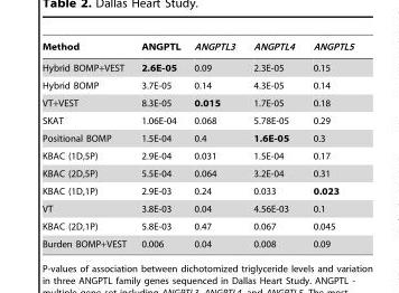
<table><thead><tr><td>Method</td><td>ANGPTL</td><td>ANGPTL3</td><td>ANGPTL4</td><td>ANGPTL5</td></tr></thead><tbody><tr><td>Hybrid BOMP+VEST</td><td>2.6E-05</td><td>0.09</td><td>2.3E-05</td><td>0.15</td></tr><tr><td>Hybrid BOMP</td><td>3.7E-05</td><td>0.14</td><td>4.3E-05</td><td>0.14</td></tr><tr><td>VT+VEST</td><td>8.3E-05</td><td>0.015</td><td>1.7E-05</td><td>0.18</td></tr><tr><td>SKAT</td><td>1.06E-04</td><td>0.068</td><td>5.78E-05</td><td>0.29</td></tr><tr><td>Positional BOMP</td><td>1.5E-04</td><td>0.4</td><td>1.6E-05</td><td>0.3</td></tr><tr><td>KBAC (1D,5P)</td><td>2.9E-04</td><td>0.031</td><td>1.5E-04</td><td>0.17</td></tr><tr><td>KBAC (2D,5P)</td><td>5.5E-04</td><td>0.064</td><td>3.2E-04</td><td>0.31</td></tr><tr><td>KBAC (1D,1P)</td><td>2.9E-03</td><td>0.24</td><td>0.033</td><td>0.023</td></tr><tr><td>VT</td><td>3.8E-03</td><td>0.04</td><td>4.56E-03</td><td>0.1</td></tr><tr><td>KBAC (2D,1P)</td><td>5.8E-03</td><td>0.47</td><td>0.067</td><td>0.045</td></tr><tr><td>Burden BOMP+VEST</td><td>0.006</td><td>0.04</td><td>0.008</td><td>0.09</td></tr></tbody></table>